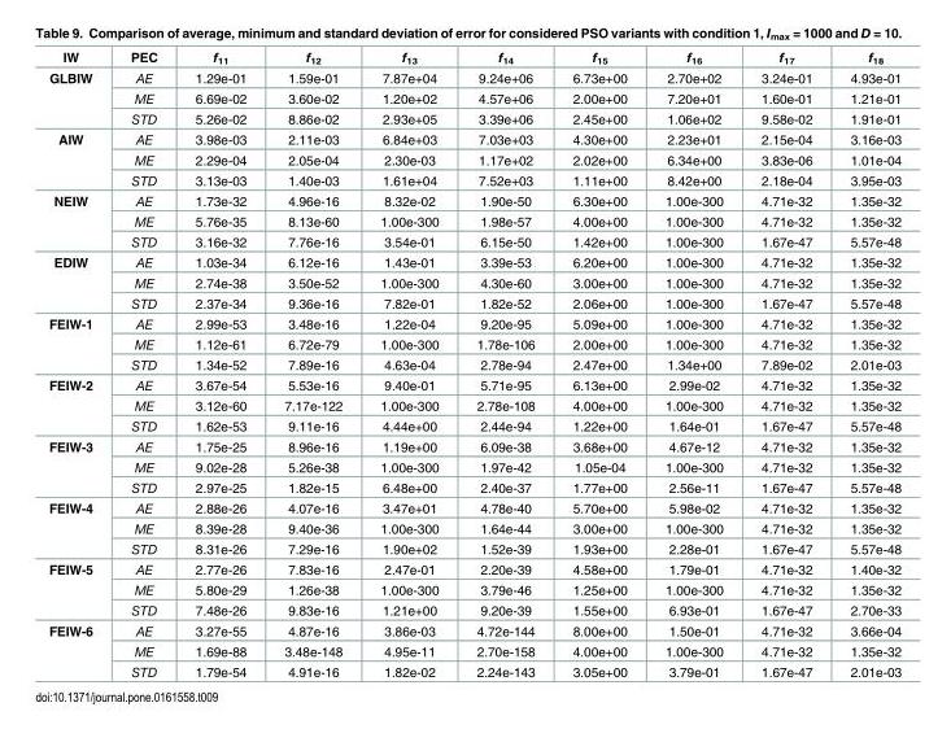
<table><thead><tr><td>IW</td><td>PEC</td><td>f<sub>11</sub></td><td>f<sub>12</sub></td><td>f<sub>13</sub></td><td>f<sub>14</sub></td><td>f<sub>15</sub></td><td>f<sub>16</sub></td><td>f<sub>17</sub></td><td>f<sub>18</sub></td></tr></thead><tbody><tr><td rowspan="3">GLBIW</td><td>AE</td><td>1.29e-01</td><td>1.59e-01</td><td>7.87e+04</td><td>9.24e+06</td><td>6.73e+00</td><td>2.70e+02</td><td>3.24e-01</td><td>4.93e-01</td></tr><tr><td>ME</td><td>6.69e-02</td><td>3.60e-02</td><td>1.20e+02</td><td>4.57e+06</td><td>2.00e+00</td><td>7.20e+01</td><td>1.60e-01</td><td>1.21e-01</td></tr><tr><td>STD</td><td>5.26e-02</td><td>8.86e-02</td><td>2.93e+05</td><td>3.39e+06</td><td>2.45e+00</td><td>1.06e+02</td><td>9.58e-02</td><td>1.91e-01</td></tr><tr><td rowspan="3">AIW</td><td>AE</td><td>3.98e-03</td><td>2.11e-03</td><td>6.84e+03</td><td>7.03e+03</td><td>4.30e+00</td><td>2.23e+01</td><td>2.15e-04</td><td>3.16e-03</td></tr><tr><td>ME</td><td>2.29e-04</td><td>2.05e-04</td><td>2.30e-03</td><td>1.17e+02</td><td>2.02e+00</td><td>6.34e+00</td><td>3.83e-06</td><td>1.01e-04</td></tr><tr><td>STD</td><td>3.13e-03</td><td>1.40e-03</td><td>1.61e+04</td><td>7.52e+03</td><td>1.11e+00</td><td>8.42e+00</td><td>2.18e-04</td><td>3.95e-03</td></tr><tr><td rowspan="3">NEIW</td><td>AE</td><td>1.73e-32</td><td>4.96e-16</td><td>8.32e-02</td><td>1.90e-50</td><td>6.30e+00</td><td>1.00e-300</td><td>4.71e-32</td><td>1.35e-32</td></tr><tr><td>ME</td><td>5.76e-35</td><td>8.13e-60</td><td>1.00e-300</td><td>1.98e-57</td><td>4.00e+00</td><td>1.00e-300</td><td>4.71e-32</td><td>1.35e-32</td></tr><tr><td>STD</td><td>3.16e-32</td><td>7.76e-16</td><td>3.54e-01</td><td>6.15e-50</td><td>1.42e+00</td><td>1.00e-300</td><td>1.67e-47</td><td>5.57e-48</td></tr><tr><td rowspan="3">EDIW</td><td>AE</td><td>1.03e-34</td><td>6.12e-16</td><td>1.43e-01</td><td>3.39e-53</td><td>6.20e+00</td><td>1.00e-300</td><td>4.71e-32</td><td>1.35e-32</td></tr><tr><td>ME</td><td>2.74e-38</td><td>3.50e-52</td><td>1.00e-300</td><td>4.30e-60</td><td>3.00e+00</td><td>1.00e-300</td><td>4.71e-32</td><td>1.35e-32</td></tr><tr><td>STD</td><td>2.37e-34</td><td>9.36e-16</td><td>7.82e-01</td><td>1.82e-52</td><td>2.06e+00</td><td>1.00e-300</td><td>1.67e-47</td><td>5.57e-48</td></tr><tr><td rowspan="3">FEIW-1</td><td>AE</td><td>2.99e-53</td><td>3.48e-16</td><td>1.22e-04</td><td>9.20e-95</td><td>5.09e+00</td><td>1.00e-300</td><td>4.71e-32</td><td>1.35e-32</td></tr><tr><td>ME</td><td>1.12e-61</td><td>6.72e-79</td><td>1.00e-300</td><td>1.78e-106</td><td>2.00e+00</td><td>1.00e-300</td><td>4.71e-32</td><td>1.35e-32</td></tr><tr><td>STD</td><td>1.34e-52</td><td>7.89e-16</td><td>4.63e-04</td><td>2.78e-94</td><td>2.47e+00</td><td>1.34e+00</td><td>7.89e-02</td><td>2.01e-03</td></tr><tr><td rowspan="3">FEIW-2</td><td>AE</td><td>3.67e-54</td><td>5.53e-16</td><td>9.40e-01</td><td>5.71e-95</td><td>6.13e+00</td><td>2.99e-02</td><td>4.71e-32</td><td>1.35e-32</td></tr><tr><td>ME</td><td>3.12e-60</td><td>7.17e-122</td><td>1.00e-300</td><td>2.78e-108</td><td>4.00e+00</td><td>1.00e-300</td><td>4.71e-32</td><td>1.35e-32</td></tr><tr><td>STD</td><td>1.62e-53</td><td>9.11e-16</td><td>4.44e+00</td><td>2.44e-94</td><td>1.22e+00</td><td>1.64e-01</td><td>1.67e-47</td><td>5.57e-48</td></tr><tr><td rowspan="3">FEIW-3</td><td>AE</td><td>1.75e-25</td><td>8.96e-16</td><td>1.19e+00</td><td>6.09e-38</td><td>3.68e+00</td><td>4.67e-12</td><td>4.71e-32</td><td>1.35e-32</td></tr><tr><td>ME</td><td>9.02e-28</td><td>5.26e-38</td><td>1.00e-300</td><td>1.97e-42</td><td>1.05e-04</td><td>1.00e-300</td><td>4.71e-32</td><td>1.35e-32</td></tr><tr><td>STD</td><td>2.97e-25</td><td>1.82e-15</td><td>6.48e+00</td><td>2.40e-37</td><td>1.77e+00</td><td>2.56e-11</td><td>1.67e-47</td><td>5.57e-48</td></tr><tr><td rowspan="3">FEIW-4</td><td>AE</td><td>2.88e-26</td><td>4.07e-16</td><td>3.47e+01</td><td>4.78e-40</td><td>5.70e+00</td><td>5.98e-02</td><td>4.71e-32</td><td>1.35e-32</td></tr><tr><td>ME</td><td>8.39e-28</td><td>9.40e-36</td><td>1.00e-300</td><td>1.64e-44</td><td>3.00e+00</td><td>1.00e-300</td><td>4.71e-32</td><td>1.35e-32</td></tr><tr><td>STD</td><td>8.31e-26</td><td>7.29e-16</td><td>1.90e+02</td><td>1.52e-39</td><td>1.93e+00</td><td>2.28e-01</td><td>1.67e-47</td><td>5.57e-48</td></tr><tr><td rowspan="3">FEIW-5</td><td>AE</td><td>2.77e-26</td><td>7.83e-16</td><td>2.47e-01</td><td>2.20e-39</td><td>4.58e+00</td><td>1.79e-01</td><td>4.71e-32</td><td>1.40e-32</td></tr><tr><td>ME</td><td>5.80e-29</td><td>1.26e-38</td><td>1.00e-300</td><td>3.79e-46</td><td>1.25e+00</td><td>1.00e-300</td><td>4.71e-32</td><td>1.35e-32</td></tr><tr><td>STD</td><td>7.48e-26</td><td>9.83e-16</td><td>1.21e+00</td><td>9.20e-39</td><td>1.55e+00</td><td>6.93e-01</td><td>1.67e-47</td><td>2.70e-33</td></tr><tr><td rowspan="3">FEIW-6</td><td>AE</td><td>3.27e-55</td><td>4.87e-16</td><td>3.86e-03</td><td>4.72e-144</td><td>8.00e+00</td><td>1.50e-01</td><td>4.71e-32</td><td>3.66e-04</td></tr><tr><td>ME</td><td>1.69e-88</td><td>3.48e-148</td><td>4.95e-11</td><td>2.70e-158</td><td>4.00e+00</td><td>1.00e-300</td><td>4.71e-32</td><td>1.35e-32</td></tr><tr><td>STD</td><td>1.79e-54</td><td>4.91e-16</td><td>1.82e-02</td><td>2.24e-143</td><td>3.05e+00</td><td>3.79e-01</td><td>1.67e-47</td><td>2.01e-03</td></tr></tbody></table>